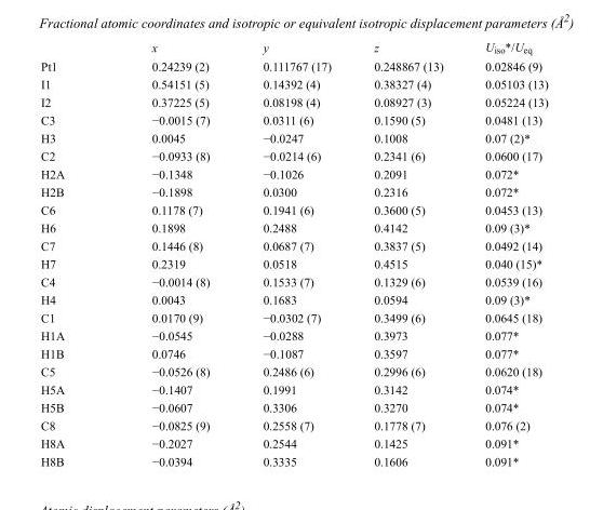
<table><thead><tr><td></td><td>x</td><td>y</td><td>z</td><td>U<sub>iso</sub>*/U<sub>eq</sub></td></tr></thead><tbody><tr><td>Pt1</td><td>0.24239 (2)</td><td>0.111767 (17)</td><td>0.248867 (13)</td><td>0.02846 (9)</td></tr><tr><td>I1</td><td>0.54151 (5)</td><td>0.14392 (4)</td><td>0.38327 (4)</td><td>0.05103 (13)</td></tr><tr><td>I2</td><td>0.37225 (5)</td><td>0.08198 (4)</td><td>0.08927 (3)</td><td>0.05224 (13)</td></tr><tr><td>C3</td><td>−0.0015 (7)</td><td>0.0311 (6)</td><td>0.1590 (5)</td><td>0.0481 (13)</td></tr><tr><td>H3</td><td>0.0045</td><td>−0.0247</td><td>0.1008</td><td>0.07 (2)*</td></tr><tr><td>C2</td><td>−0.0933 (8)</td><td>−0.0214 (6)</td><td>0.2341 (6)</td><td>0.0600 (17)</td></tr><tr><td>H2A</td><td>−0.1348</td><td>−0.1026</td><td>0.2091</td><td>0.072*</td></tr><tr><td>H2B</td><td>−0.1898</td><td>0.0300</td><td>0.2316</td><td>0.072*</td></tr><tr><td>C6</td><td>0.1178 (7)</td><td>0.1941 (6)</td><td>0.3600 (5)</td><td>0.0453 (13)</td></tr><tr><td>H6</td><td>0.1898</td><td>0.2488</td><td>0.4142</td><td>0.09 (3)*</td></tr><tr><td>C7</td><td>0.1446 (8)</td><td>0.0687 (7)</td><td>0.3837 (5)</td><td>0.0492 (14)</td></tr><tr><td>H7</td><td>0.2319</td><td>0.0518</td><td>0.4515</td><td>0.040 (15)*</td></tr><tr><td>C4</td><td>−0.0014 (8)</td><td>0.1533 (7)</td><td>0.1329 (6)</td><td>0.0539 (16)</td></tr><tr><td>H4</td><td>0.0043</td><td>0.1683</td><td>0.0594</td><td>0.09 (3)*</td></tr><tr><td>C1</td><td>0.0170 (9)</td><td>−0.0302 (7)</td><td>0.3499 (6)</td><td>0.0645 (18)</td></tr><tr><td>H1A</td><td>−0.0545</td><td>−0.0288</td><td>0.3973</td><td>0.077*</td></tr><tr><td>H1B</td><td>0.0746</td><td>−0.1087</td><td>0.3597</td><td>0.077*</td></tr><tr><td>C5</td><td>−0.0526 (8)</td><td>0.2486 (6)</td><td>0.2996 (6)</td><td>0.0620 (18)</td></tr><tr><td>H5A</td><td>−0.1407</td><td>0.1991</td><td>0.3142</td><td>0.074*</td></tr><tr><td>H5B</td><td>−0.0607</td><td>0.3306</td><td>0.3270</td><td>0.074*</td></tr><tr><td>C8</td><td>−0.0825 (9)</td><td>0.2558 (7)</td><td>0.1778 (7)</td><td>0.076 (2)</td></tr><tr><td>H8A</td><td>−0.2027</td><td>0.2544</td><td>0.1425</td><td>0.091*</td></tr><tr><td>H8B</td><td>−0.0394</td><td>0.3335</td><td>0.1606</td><td>0.091*</td></tr></tbody></table>